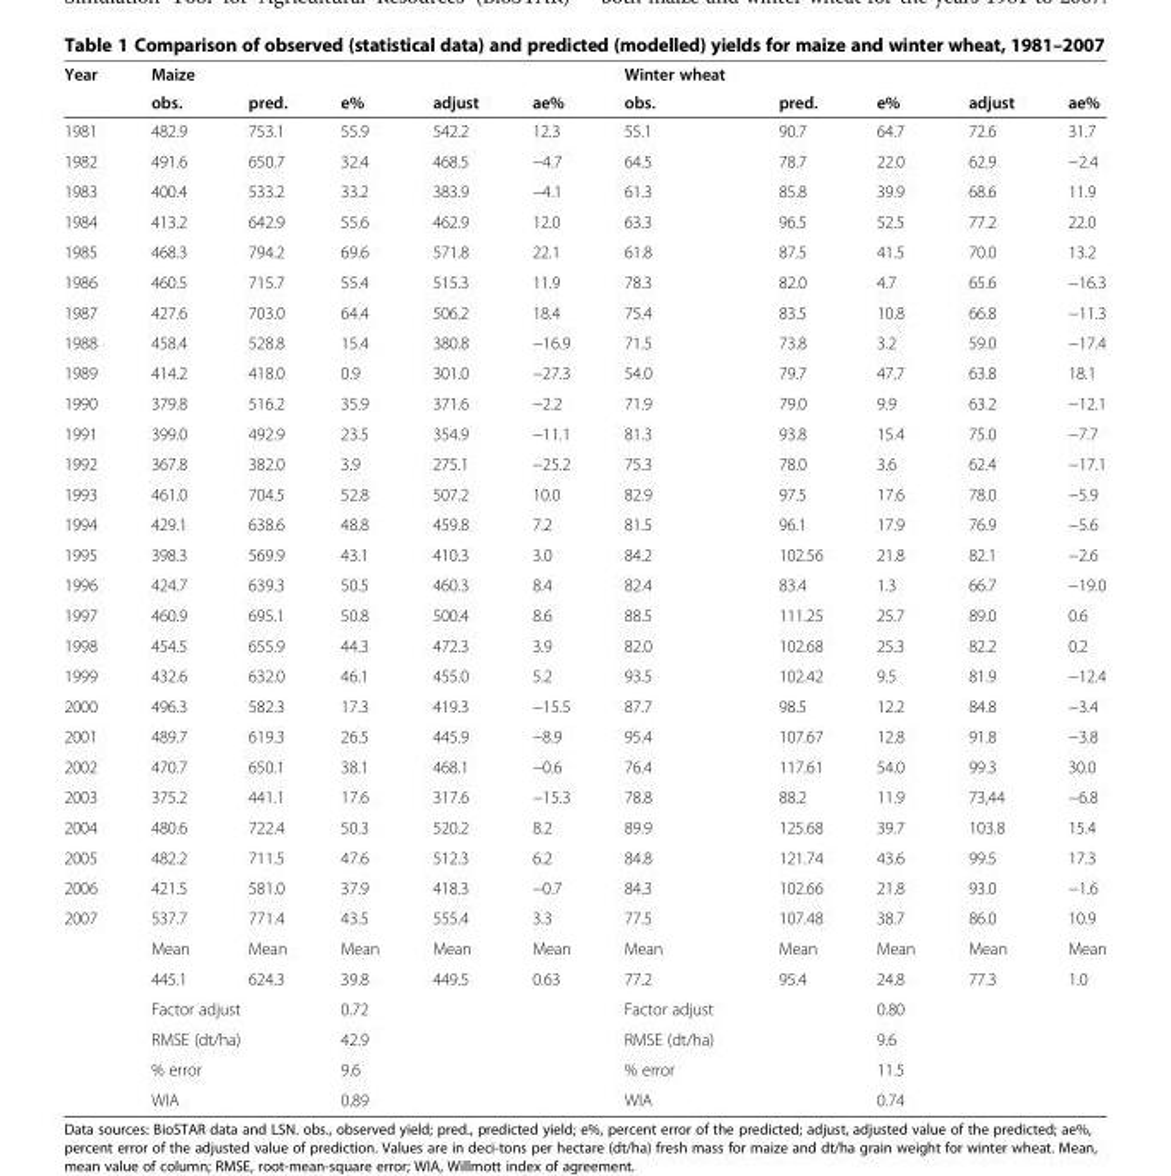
<table><thead><tr><td rowspan="2">Year</td><td rowspan="2">Maize obs.</td><td rowspan="2">pred.</td><td rowspan="2">e%</td><td rowspan="2">adjust</td><td rowspan="2">ae%</td><td rowspan="2">Winter wheat obs.</td><td rowspan="2">pred.</td><td rowspan="2">e%</td><td rowspan="2">adjust</td><td rowspan="2">ae%</td></tr><tr></tr></thead><tbody><tr><td>1981</td><td>482.9</td><td>753.1</td><td>55.9</td><td>542.2</td><td>12.3</td><td>55.1</td><td>90.7</td><td>64.7</td><td>72.6</td><td>31.7</td></tr><tr><td>1982</td><td>491.6</td><td>650.7</td><td>32.4</td><td>468.5</td><td>−4.7</td><td>64.5</td><td>78.7</td><td>22.0</td><td>62.9</td><td>−2.4</td></tr><tr><td>1983</td><td>400.4</td><td>533.2</td><td>33.2</td><td>383.9</td><td>−4.1</td><td>61.3</td><td>85.8</td><td>39.9</td><td>68.6</td><td>11.9</td></tr><tr><td>1984</td><td>413.2</td><td>642.9</td><td>55.6</td><td>462.9</td><td>12.0</td><td>63.3</td><td>96.5</td><td>52.5</td><td>77.2</td><td>22.0</td></tr><tr><td>1985</td><td>468.3</td><td>794.2</td><td>69.6</td><td>571.8</td><td>22.1</td><td>61.8</td><td>87.5</td><td>41.5</td><td>70.0</td><td>13.2</td></tr><tr><td>1986</td><td>460.5</td><td>715.7</td><td>55.4</td><td>515.3</td><td>11.9</td><td>78.3</td><td>82.0</td><td>4.7</td><td>65.6</td><td>−16.3</td></tr><tr><td>1987</td><td>427.6</td><td>703.0</td><td>64.4</td><td>506.2</td><td>18.4</td><td>75.4</td><td>83.5</td><td>10.8</td><td>66.8</td><td>−11.3</td></tr><tr><td>1988</td><td>458.4</td><td>528.8</td><td>15.4</td><td>380.8</td><td>−16.9</td><td>71.5</td><td>73.8</td><td>3.2</td><td>59.0</td><td>−17.4</td></tr><tr><td>1989</td><td>414.2</td><td>418.0</td><td>0.9</td><td>301.0</td><td>−27.3</td><td>54.0</td><td>79.7</td><td>47.7</td><td>63.8</td><td>18.1</td></tr><tr><td>1990</td><td>379.8</td><td>516.2</td><td>35.9</td><td>371.6</td><td>−2.2</td><td>71.9</td><td>79.0</td><td>9.9</td><td>63.2</td><td>−12.1</td></tr><tr><td>1991</td><td>399.0</td><td>492.9</td><td>23.5</td><td>354.9</td><td>−11.1</td><td>81.3</td><td>93.8</td><td>15.4</td><td>75.0</td><td>−7.7</td></tr><tr><td>1992</td><td>367.8</td><td>382.0</td><td>3.9</td><td>275.1</td><td>−25.2</td><td>75.3</td><td>78.0</td><td>3.6</td><td>62.4</td><td>−17.1</td></tr><tr><td>1993</td><td>461.0</td><td>704.5</td><td>52.8</td><td>507.2</td><td>10.0</td><td>82.9</td><td>97.5</td><td>17.6</td><td>78.0</td><td>−5.9</td></tr><tr><td>1994</td><td>429.1</td><td>638.6</td><td>48.8</td><td>459.8</td><td>7.2</td><td>81.5</td><td>96.1</td><td>17.9</td><td>76.9</td><td>−5.6</td></tr><tr><td>1995</td><td>398.3</td><td>569.9</td><td>43.1</td><td>410.3</td><td>3.0</td><td>84.2</td><td>102.56</td><td>21.8</td><td>82.1</td><td>−2.6</td></tr><tr><td>1996</td><td>424.7</td><td>639.3</td><td>50.5</td><td>460.3</td><td>8.4</td><td>82.4</td><td>83.4</td><td>1.3</td><td>66.7</td><td>−19.0</td></tr><tr><td>1997</td><td>460.9</td><td>695.1</td><td>50.8</td><td>500.4</td><td>8.6</td><td>88.5</td><td>111.25</td><td>25.7</td><td>89.0</td><td>0.6</td></tr><tr><td>1998</td><td>454.5</td><td>655.9</td><td>44.3</td><td>472.3</td><td>3.9</td><td>82.0</td><td>102.68</td><td>25.3</td><td>82.2</td><td>0.2</td></tr><tr><td>1999</td><td>432.6</td><td>632.0</td><td>46.1</td><td>455.0</td><td>5.2</td><td>93.5</td><td>102.42</td><td>9.5</td><td>81.9</td><td>−12.4</td></tr><tr><td>2000</td><td>496.3</td><td>582.3</td><td>17.3</td><td>419.3</td><td>−15.5</td><td>87.7</td><td>98.5</td><td>12.2</td><td>84.8</td><td>−3.4</td></tr><tr><td>2001</td><td>489.7</td><td>619.3</td><td>26.5</td><td>445.9</td><td>−8.9</td><td>95.4</td><td>107.67</td><td>12.8</td><td>91.8</td><td>−3.8</td></tr><tr><td>2002</td><td>470.7</td><td>650.1</td><td>38.1</td><td>468.1</td><td>−0.6</td><td>76.4</td><td>117.61</td><td>54.0</td><td>99.3</td><td>30.0</td></tr><tr><td>2003</td><td>375.2</td><td>441.1</td><td>17.6</td><td>317.6</td><td>−15.3</td><td>78.8</td><td>88.2</td><td>11.9</td><td>73,44</td><td>−6.8</td></tr><tr><td>2004</td><td>480.6</td><td>722.4</td><td>50.3</td><td>520.2</td><td>8.2</td><td>89.9</td><td>125.68</td><td>39.7</td><td>103.8</td><td>15.4</td></tr><tr><td>2005</td><td>482.2</td><td>711.5</td><td>47.6</td><td>512.3</td><td>6.2</td><td>84.8</td><td>121.74</td><td>43.6</td><td>99.5</td><td>17.3</td></tr><tr><td>2006</td><td>421.5</td><td>581.0</td><td>37.9</td><td>418.3</td><td>−0.7</td><td>84.3</td><td>102.66</td><td>21.8</td><td>93.0</td><td>−1.6</td></tr><tr><td rowspan="7">2007</td><td>537.7</td><td>771.4</td><td>43.5</td><td>555.4</td><td>3.3</td><td>77.5</td><td>107.48</td><td>38.7</td><td>86.0</td><td>10.9</td></tr><tr><td>Mean</td><td>Mean</td><td>Mean</td><td>Mean</td><td>Mean</td><td>Mean</td><td>Mean</td><td>Mean</td><td>Mean</td><td>Mean</td></tr><tr><td>445.1</td><td>624.3</td><td>39.8</td><td>449.5</td><td>0.63</td><td>77.2</td><td>95.4</td><td>24.8</td><td>77.3</td><td>1.0</td></tr><tr><td colspan="2">Factor adjust</td><td>0.72</td><td></td><td></td><td colspan="2">Factor adjust</td><td>0.80</td><td></td><td></td></tr><tr><td colspan="2">RMSE (dt/ha)</td><td>42.9</td><td></td><td></td><td colspan="2">RMSE (dt/ha)</td><td>9.6</td><td></td><td></td></tr><tr><td colspan="2">% error</td><td>9.6</td><td></td><td></td><td colspan="2">% error</td><td>11.5</td><td></td><td></td></tr><tr><td colspan="2">WIA</td><td>0.89</td><td></td><td></td><td colspan="2">WIA</td><td>0.74</td><td></td><td></td></tr></tbody></table>